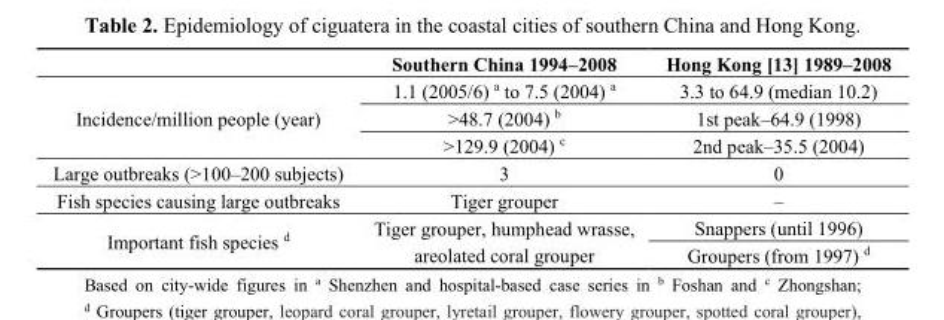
<table><thead><tr><td></td><td>Southern China 1994–2008</td><td>Hong Kong [13] 1989–2008</td></tr></thead><tbody><tr><td rowspan="3">Incidence/million people (year)</td><td>1.1 (2005/6) <sup>a</sup> to 7.5 (2004) <sup>a</sup></td><td>3.3 to 64.9 (median 10.2)</td></tr><tr><td>&gt;48.7 (2004) <sup>b</sup></td><td>1st peak–64.9 (1998)</td></tr><tr><td>&gt;129.9 (2004) <sup>c</sup></td><td>2nd peak–35.5 (2004)</td></tr><tr><td>Large outbreaks (&gt;100–200 subjects)</td><td>3</td><td>0</td></tr><tr><td>Fish species causing large outbreaks</td><td>Tiger grouper</td><td>–</td></tr><tr><td rowspan="2">Important fish species <sup>d</sup></td><td rowspan="2">Tiger grouper, humphead wrasse, areolated coral grouper</td><td>Snappers (until 1996)</td></tr><tr><td>Groupers (from 1997) <sup>d</sup></td></tr></tbody></table>